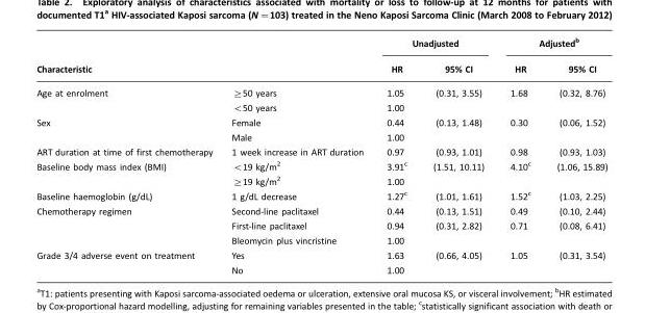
<table><thead><tr><td rowspan="2">Characteristic</td><td rowspan="2"></td><td colspan="2">Unadjusted</td><td colspan="2">Adjusted<sup>b</sup></td></tr><tr><td>HR</td><td>95% CI</td><td>HR</td><td>95% CI</td></tr></thead><tbody><tr><td rowspan="2">Age at enrolment</td><td>≥50 years</td><td>1.05</td><td>(0.31, 3.55)</td><td>1.68</td><td>(0.32, 8.76)</td></tr><tr><td>&lt;50 years</td><td>1.00</td><td></td><td></td><td></td></tr><tr><td rowspan="2">Sex</td><td>Female</td><td>0.44</td><td>(0.13, 1.48)</td><td>0.30</td><td>(0.06, 1.52)</td></tr><tr><td>Male</td><td>1.00</td><td></td><td></td><td></td></tr><tr><td>ART duration at time of first chemotherapy</td><td>1 week increase in ART duration</td><td>0.97</td><td>(0.93, 1.01)</td><td>0.98</td><td>(0.93, 1.03)</td></tr><tr><td rowspan="2">Baseline body mass index (BMI)</td><td>&lt;19 kg/m<sup>2</sup></td><td>3.91<sup>c</sup></td><td>(1.51, 10.11)</td><td>4.10<sup>c</sup></td><td>(1.06, 15.89)</td></tr><tr><td>≥19 kg/m<sup>2</sup></td><td>1.00</td><td></td><td></td><td></td></tr><tr><td>Baseline haemoglobin (g/dL)</td><td>1 g/dL decrease</td><td>1.27<sup>c</sup></td><td>(1.01, 1.61)</td><td>1.52<sup>c</sup></td><td>(1.03, 2.25)</td></tr><tr><td rowspan="3">Chemotherapy regimen</td><td>Second-line paclitaxel</td><td>0.44</td><td>(0.13, 1.51)</td><td>0.49</td><td>(0.10, 2.44)</td></tr><tr><td>First-line paclitaxel</td><td>0.94</td><td>(0.31, 2.82)</td><td>0.71</td><td>(0.08, 6.41)</td></tr><tr><td>Bleomycin plus vincristine</td><td>1.00</td><td></td><td></td><td></td></tr><tr><td rowspan="2">Grade 3/4 adverse event on treatment</td><td>Yes</td><td>1.63</td><td>(0.66, 4.05)</td><td>1.05</td><td>(0.31, 3.54)</td></tr><tr><td>No</td><td>1.00</td><td></td><td></td><td></td></tr></tbody></table>